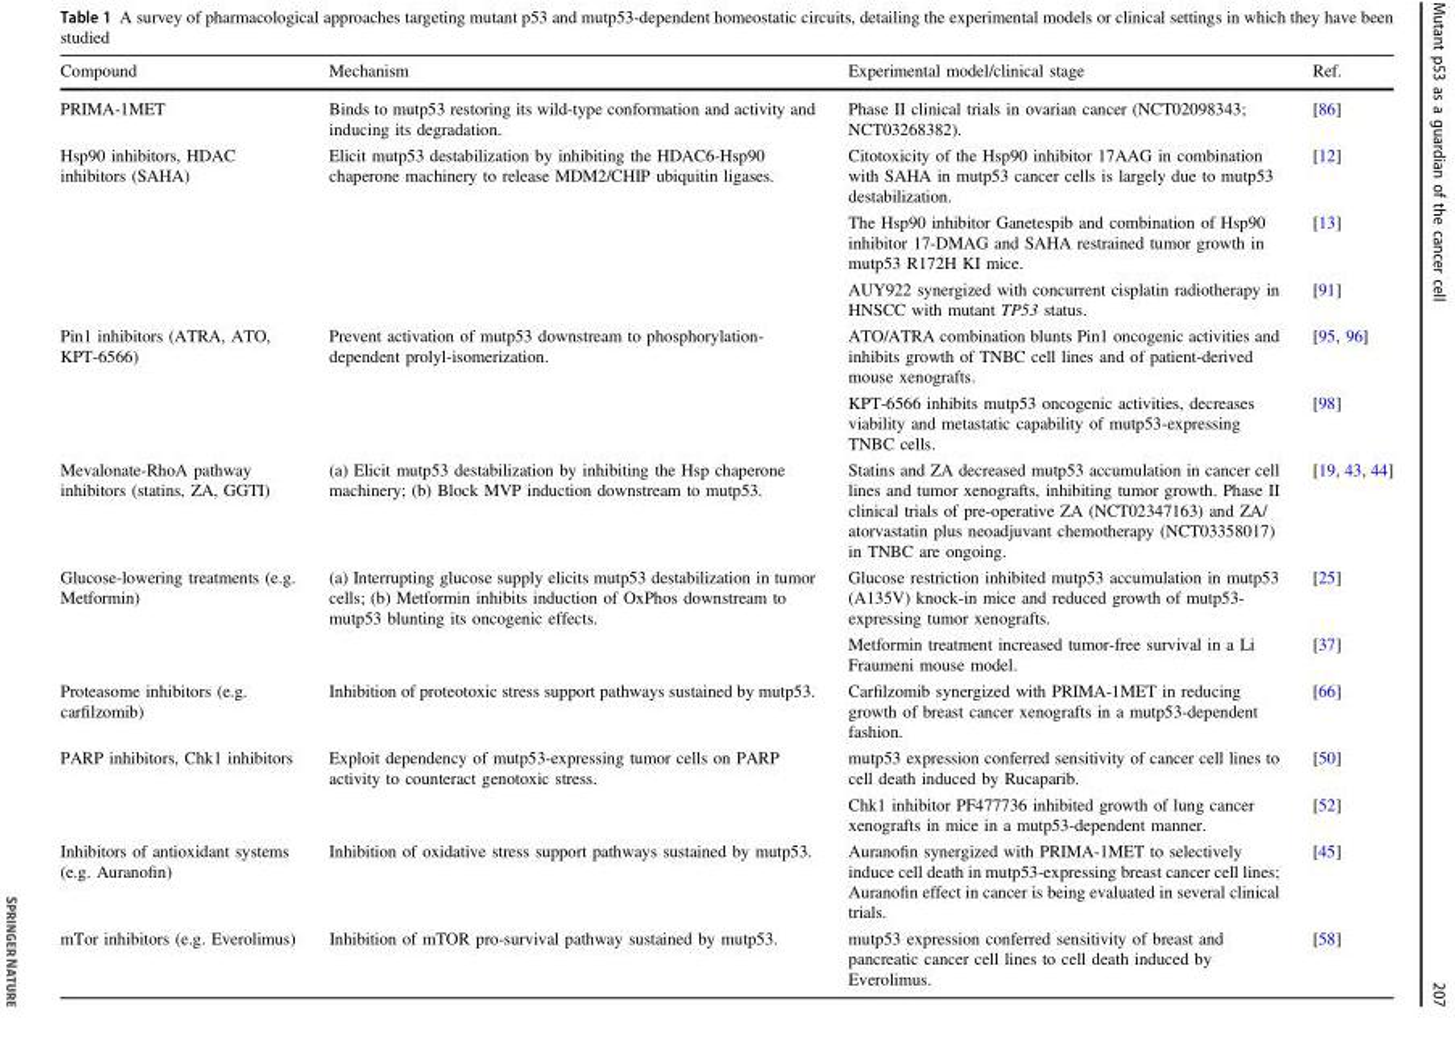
<table><thead><tr><td>Compound</td><td>Mechanism</td><td>Experimental model/clinical stage</td><td>Ref.</td></tr></thead><tbody><tr><td>PRIMA-1MET</td><td>Binds to mutp53 restoring its wild-type conformation and activity and inducing its degradation.</td><td>Phase II clinical trials in ovarian cancer (NCT02098343; NCT03268382).</td><td>[86]</td></tr><tr><td rowspan="3">Hsp90 inhibitors, HDAC inhibitors (SAHA)</td><td rowspan="3">Elicit mutp53 destabilization by inhibiting the HDAC6-Hsp90 chaperone machinery to release MDM2/CHIP ubiquitin ligases.</td><td>Citotoxicity of the Hsp90 inhibitor 17AAG in combination with SAHA in mutp53 cancer cells is largely due to mutp53 destabilization.</td><td>[12]</td></tr><tr><td>The Hsp90 inhibitor Ganetespib and combination of Hsp90 inhibitor 17-DMAG and SAHA restrained tumor growth in mutp53 R172H KI mice.</td><td>[13]</td></tr><tr><td>AUY922 synergized with concurrent cisplatin radiotherapy in HNSCC with mutant TP53 status.</td><td>[91]</td></tr><tr><td rowspan="2">Pin1 inhibitors (ATRA, ATO, KPT-6566)</td><td rowspan="2">Prevent activation of mutp53 downstream to phosphorylation- dependent prolyl-isomerization.</td><td>ATO/ATRA combination blunts Pin1 oncogenic activities and inhibits growth of TNBC cell lines and of patient-derived mouse xenografts.</td><td>[95, 96]</td></tr><tr><td>KPT-6566 inhibits mutp53 oncogenic activities, decreases viability and metastatic capability of mutp53-expressing TNBC cells.</td><td>[98]</td></tr><tr><td>Mevalonate-RhoA pathway inhibitors (statins, ZA, GGTI)</td><td>(a) Elicit mutp53 destabilization by inhibiting the Hsp chaperone machinery; (b) Block MVP induction downstream to mutp53.</td><td>Statins and ZA decreased mutp53 accumulation in cancer cell lines and tumor xenografts, inhibiting tumor growth. Phase II clinical trials of pre-operative ZA (NCT02347163) and ZA/ atorvastatin plus neoadjuvant chemotherapy (NCT03358017) in TNBC are ongoing.</td><td>[19, 43, 44]</td></tr><tr><td rowspan="2">Glucose-lowering treatments (e.g. Metformin)</td><td rowspan="2">(a) Interrupting glucose supply elicits mutp53 destabilization in tumor cells; (b) Metformin inhibits induction of OxPhos downstream to mutp53 blunting its oncogenic effects.</td><td>Glucose restriction inhibited mutp53 accumulation in mutp53 (A135V) knock-in mice and reduced growth of mutp53- expressing tumor xenografts.</td><td>[25]</td></tr><tr><td>Metformin treatment increased tumor-free survival in a Li Fraumeni mouse model.</td><td>[37]</td></tr><tr><td>Proteasome inhibitors (e.g. carfilzomib)</td><td>Inhibition of proteotoxic stress support pathways sustained by mutp53.</td><td>Carfilzomib synergized with PRIMA-1MET in reducing growth of breast cancer xenografts in a mutp53-dependent fashion.</td><td>[66]</td></tr><tr><td rowspan="2">PARP inhibitors, Chk1 inhibitors</td><td rowspan="2">Exploit dependency of mutp53-expressing tumor cells on PARP activity to counteract genotoxic stress.</td><td>mutp53 expression conferred sensitivity of cancer cell lines to cell death induced by Rucaparib.</td><td>[50]</td></tr><tr><td>Chk1 inhibitor PF477736 inhibited growth of lung cancer xenografts in mice in a mutp53-dependent manner.</td><td>[52]</td></tr><tr><td>Inhibitors of antioxidant systems (e.g. Auranofin)</td><td>Inhibition of oxidative stress support pathways sustained by mutp53.</td><td>Auranofin synergized with PRIMA-1MET to selectively induce cell death in mutp53-expressing breast cancer cell lines; Auranofin effect in cancer is being evaluated in several clinical trials.</td><td>[45]</td></tr><tr><td>mTor inhibitors (e.g. Everolimus)</td><td>Inhibition of mTOR pro-survival pathway sustained by mutp53.</td><td>mutp53 expression conferred sensitivity of breast and pancreatic cancer cell lines to cell death induced by Everolimus.</td><td>[58]</td></tr></tbody></table>